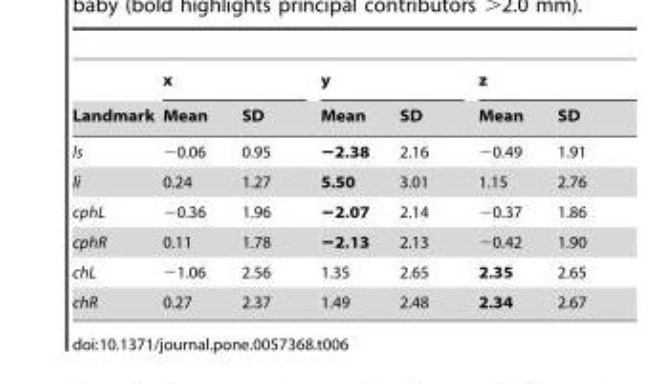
<table><thead><tr><td rowspan="2">Landmark</td><td colspan="2">x</td><td colspan="2">y</td><td colspan="2">z</td></tr><tr><td>Mean</td><td>SD</td><td>Mean</td><td>SD</td><td>Mean</td><td>SD</td></tr></thead><tbody><tr><td>ls</td><td>−0.06</td><td>0.95</td><td>−2.38</td><td>2.16</td><td>−0.49</td><td>1.91</td></tr><tr><td>li</td><td>0.24</td><td>1.27</td><td>5.50</td><td>3.01</td><td>1.15</td><td>2.76</td></tr><tr><td>cphL</td><td>−0.36</td><td>1.96</td><td>−2.07</td><td>2.14</td><td>−0.37</td><td>1.86</td></tr><tr><td>cphR</td><td>0.11</td><td>1.78</td><td>−2.13</td><td>2.13</td><td>−0.42</td><td>1.90</td></tr><tr><td>chL</td><td>−1.06</td><td>2.56</td><td>1.35</td><td>2.65</td><td>2.35</td><td>2.65</td></tr><tr><td>chR</td><td>0.27</td><td>2.37</td><td>1.49</td><td>2.48</td><td>2.34</td><td>2.67</td></tr></tbody></table>